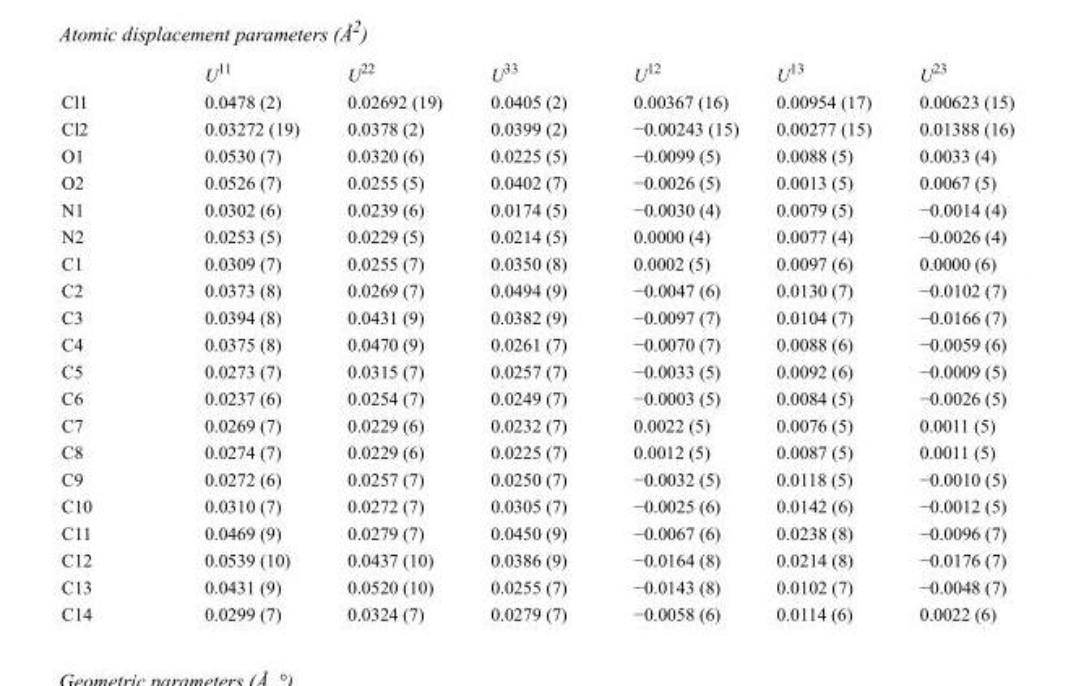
<table><thead><tr><td></td><td>U<sup>11</sup></td><td>U<sup>22</sup></td><td>U<sup>33</sup></td><td>U<sup>12</sup></td><td>U<sup>13</sup></td><td>U<sup>23</sup></td></tr></thead><tbody><tr><td>Cl1</td><td>0.0478 (2)</td><td>0.02692 (19)</td><td>0.0405 (2)</td><td>0.00367 (16)</td><td>0.00954 (17)</td><td>0.00623 (15)</td></tr><tr><td>Cl2</td><td>0.03272 (19)</td><td>0.0378 (2)</td><td>0.0399 (2)</td><td>−0.00243 (15)</td><td>0.00277 (15)</td><td>0.01388 (16)</td></tr><tr><td>O1</td><td>0.0530 (7)</td><td>0.0320 (6)</td><td>0.0225 (5)</td><td>−0.0099 (5)</td><td>0.0088 (5)</td><td>0.0033 (4)</td></tr><tr><td>O2</td><td>0.0526 (7)</td><td>0.0255 (5)</td><td>0.0402 (7)</td><td>−0.0026 (5)</td><td>0.0013 (5)</td><td>0.0067 (5)</td></tr><tr><td>N1</td><td>0.0302 (6)</td><td>0.0239 (6)</td><td>0.0174 (5)</td><td>−0.0030 (4)</td><td>0.0079 (5)</td><td>−0.0014 (4)</td></tr><tr><td>N2</td><td>0.0253 (5)</td><td>0.0229 (5)</td><td>0.0214 (5)</td><td>0.0000 (4)</td><td>0.0077 (4)</td><td>−0.0026 (4)</td></tr><tr><td>C1</td><td>0.0309 (7)</td><td>0.0255 (7)</td><td>0.0350 (8)</td><td>0.0002 (5)</td><td>0.0097 (6)</td><td>0.0000 (6)</td></tr><tr><td>C2</td><td>0.0373 (8)</td><td>0.0269 (7)</td><td>0.0494 (9)</td><td>−0.0047 (6)</td><td>0.0130 (7)</td><td>−0.0102 (7)</td></tr><tr><td>C3</td><td>0.0394 (8)</td><td>0.0431 (9)</td><td>0.0382 (9)</td><td>−0.0097 (7)</td><td>0.0104 (7)</td><td>−0.0166 (7)</td></tr><tr><td>C4</td><td>0.0375 (8)</td><td>0.0470 (9)</td><td>0.0261 (7)</td><td>−0.0070 (7)</td><td>0.0088 (6)</td><td>−0.0059 (6)</td></tr><tr><td>C5</td><td>0.0273 (7)</td><td>0.0315 (7)</td><td>0.0257 (7)</td><td>−0.0033 (5)</td><td>0.0092 (6)</td><td>−0.0009 (5)</td></tr><tr><td>C6</td><td>0.0237 (6)</td><td>0.0254 (7)</td><td>0.0249 (7)</td><td>−0.0003 (5)</td><td>0.0084 (5)</td><td>−0.0026 (5)</td></tr><tr><td>C7</td><td>0.0269 (7)</td><td>0.0229 (6)</td><td>0.0232 (7)</td><td>0.0022 (5)</td><td>0.0076 (5)</td><td>0.0011 (5)</td></tr><tr><td>C8</td><td>0.0274 (7)</td><td>0.0229 (6)</td><td>0.0225 (7)</td><td>0.0012 (5)</td><td>0.0087 (5)</td><td>0.0011 (5)</td></tr><tr><td>C9</td><td>0.0272 (6)</td><td>0.0257 (7)</td><td>0.0250 (7)</td><td>−0.0032 (5)</td><td>0.0118 (5)</td><td>−0.0010 (5)</td></tr><tr><td>C10</td><td>0.0310 (7)</td><td>0.0272 (7)</td><td>0.0305 (7)</td><td>−0.0025 (6)</td><td>0.0142 (6)</td><td>−0.0012 (5)</td></tr><tr><td>C11</td><td>0.0469 (9)</td><td>0.0279 (7)</td><td>0.0450 (9)</td><td>−0.0067 (6)</td><td>0.0238 (8)</td><td>−0.0096 (7)</td></tr><tr><td>C12</td><td>0.0539 (10)</td><td>0.0437 (10)</td><td>0.0386 (9)</td><td>−0.0164 (8)</td><td>0.0214 (8)</td><td>−0.0176 (7)</td></tr><tr><td>C13</td><td>0.0431 (9)</td><td>0.0520 (10)</td><td>0.0255 (7)</td><td>−0.0143 (8)</td><td>0.0102 (7)</td><td>−0.0048 (7)</td></tr><tr><td>C14</td><td>0.0299 (7)</td><td>0.0324 (7)</td><td>0.0279 (7)</td><td>−0.0058 (6)</td><td>0.0114 (6)</td><td>0.0022 (6)</td></tr></tbody></table>